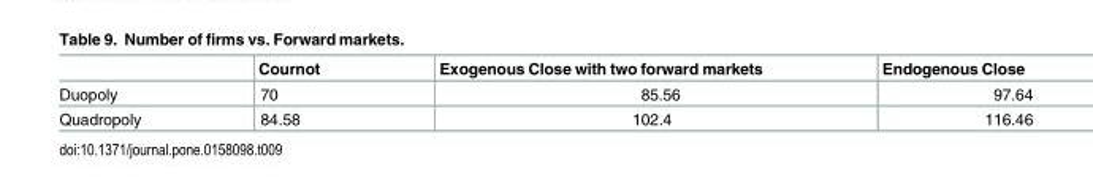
<table><thead><tr><td></td><td>Cournot</td><td>Exogenous Close with two forward markets</td><td>Endogenous Close</td></tr></thead><tbody><tr><td>Duopoly</td><td>70</td><td>85.56</td><td>97.64</td></tr><tr><td>Quadropoly</td><td>84.58</td><td>102.4</td><td>116.46</td></tr></tbody></table>